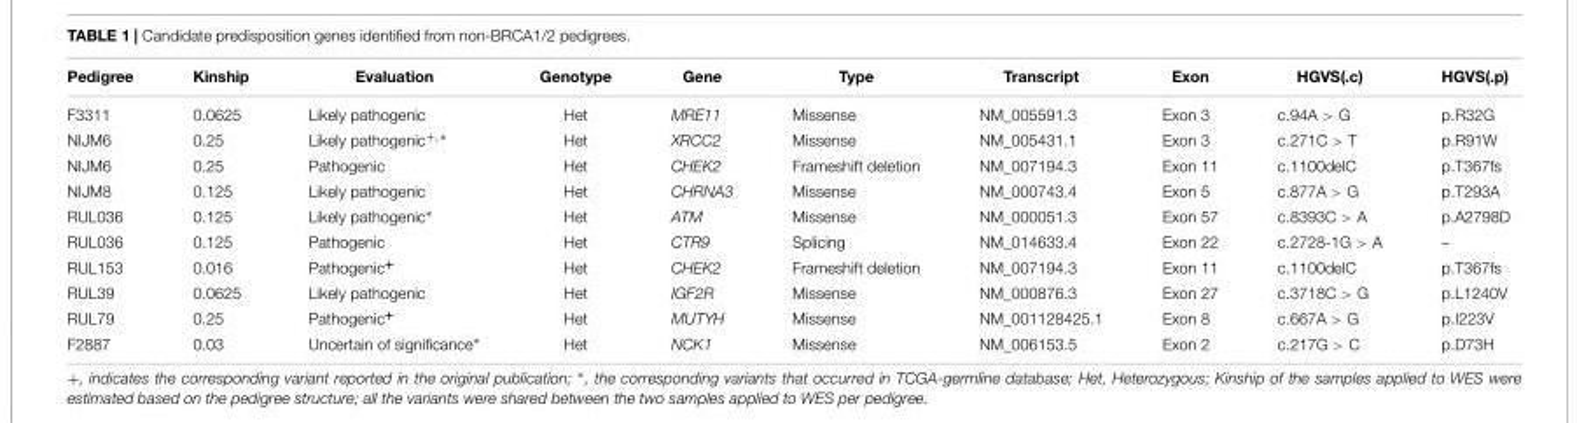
<table><thead><tr><td>Pedigree</td><td>Kinship</td><td>Evaluation</td><td>Genotype</td><td>Gene</td><td>Type</td><td>Transcript</td><td>Exon</td><td>HGVS(.c)</td><td>HGVS(.p)</td></tr></thead><tbody><tr><td>F3311</td><td>0.0625</td><td>Likely pathogenic</td><td>Het</td><td>MRE11</td><td>Missense</td><td>NM_005591.3</td><td>Exon 3</td><td>c.94A &gt; G</td><td>p.R32G</td></tr><tr><td>NIJM6</td><td>0.25</td><td>Likely pathogenic<sup>+,∗</sup></td><td>Het</td><td>XRCC2</td><td>Missense</td><td>NM_005431.1</td><td>Exon 3</td><td>c.271C &gt; T</td><td>p.R91W</td></tr><tr><td>NIJM6</td><td>0.25</td><td>Pathogenic</td><td>Het</td><td>CHEK2</td><td>Frameshift deletion</td><td>NM_007194.3</td><td>Exon 11</td><td>c.1100delC</td><td>p.T367fs</td></tr><tr><td>NIJM8</td><td>0.125</td><td>Likely pathogenic</td><td>Het</td><td>CHRNA3</td><td>Missense</td><td>NM_000743.4</td><td>Exon 5</td><td>c.877A &gt; G</td><td>p.T293A</td></tr><tr><td>RUL036</td><td>0.125</td><td>Likely pathogenic∗</td><td>Het</td><td>ATM</td><td>Missense</td><td>NM_000051.3</td><td>Exon 57</td><td>c.8393C &gt; A</td><td>p.A2798D</td></tr><tr><td>RUL036</td><td>0.125</td><td>Pathogenic</td><td>Het</td><td>CTR9</td><td>Splicing</td><td>NM_014633.4</td><td>Exon 22</td><td>c.2728-1G &gt; A</td><td>–</td></tr><tr><td>RUL153</td><td>0.016</td><td>Pathogenic<sup>+</sup></td><td>Het</td><td>CHEK2</td><td>Frameshift deletion</td><td>NM_007194.3</td><td>Exon 11</td><td>c.1100delC</td><td>p.T367fs</td></tr><tr><td>RUL39</td><td>0.0625</td><td>Likely pathogenic</td><td>Het</td><td>IGF2R</td><td>Missense</td><td>NM_000876.3</td><td>Exon 27</td><td>c.3718C &gt; G</td><td>p.L1240V</td></tr><tr><td>RUL79</td><td>0.25</td><td>Pathogenic<sup>+</sup></td><td>Het</td><td>MUTYH</td><td>Missense</td><td>NM_001128425.1</td><td>Exon 8</td><td>c.667A &gt; G</td><td>p.I223V</td></tr><tr><td>F2887</td><td>0.03</td><td>Uncertain of significance∗</td><td>Het</td><td>NCK1</td><td>Missense</td><td>NM_006153.5</td><td>Exon 2</td><td>c.217G &gt; C</td><td>p.D73H</td></tr></tbody></table>